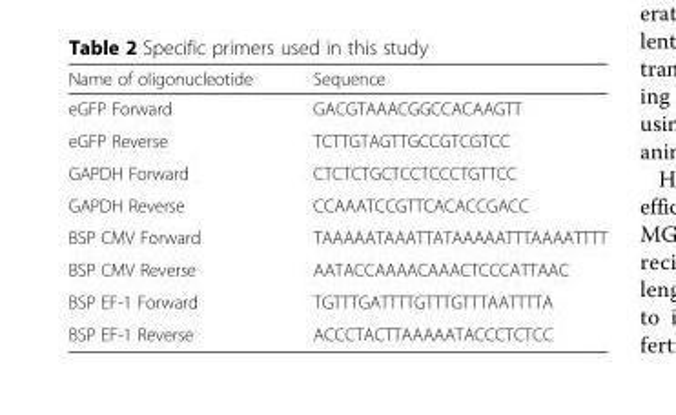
<table><thead><tr><td>Name of oligonucleotide</td><td>Sequence</td></tr></thead><tbody><tr><td>eGFP Forward</td><td>GACGTAAACGGCCACAAGTT</td></tr><tr><td>eGFP Reverse</td><td>TCTTGTAGTTGCCGTCGTCC</td></tr><tr><td>GAPDH Forward</td><td>CTCTCTGCTCCTCCCTGTTCC</td></tr><tr><td>GAPDH Reverse</td><td>CCAAATCCGTTCACACCGACC</td></tr><tr><td>BSP CMV Forward</td><td>TAAAAATAAATTATAAAAATTTAAAATTTT</td></tr><tr><td>BSP CMV Reverse</td><td>AATACCAAAACAAACTCCCATTAAC</td></tr><tr><td>BSP EF-1 Forward</td><td>TGTTTGATTTTGTTTGTTTAATTTTA</td></tr><tr><td>BSP EF-1 Reverse</td><td>ACCCTACTTAAAAATACCCTCTCC</td></tr></tbody></table>